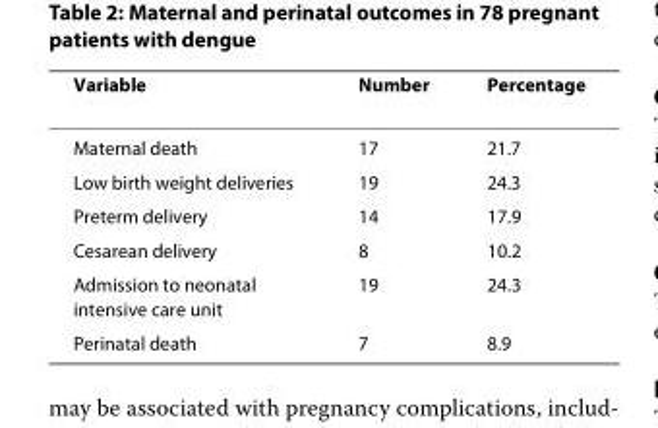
<table><thead><tr><td>Variable</td><td>Number</td><td>Percentage</td></tr></thead><tbody><tr><td>Maternal death</td><td>17</td><td>21.7</td></tr><tr><td>Low birth weight deliveries</td><td>19</td><td>24.3</td></tr><tr><td>Preterm delivery</td><td>14</td><td>17.9</td></tr><tr><td>Cesarean delivery</td><td>8</td><td>10.2</td></tr><tr><td>Admission to neonatal intensive care unit</td><td>19</td><td>24.3</td></tr><tr><td>Perinatal death</td><td>7</td><td>8.9</td></tr></tbody></table>